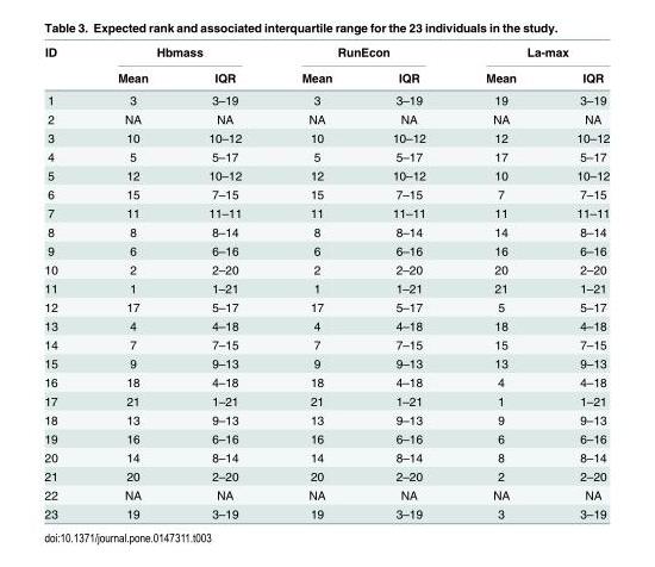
<table><thead><tr><td rowspan="2">ID</td><td colspan="2">Hbmass</td><td colspan="2">RunEcon</td><td colspan="2">La-max</td></tr><tr><td>Mean</td><td>IQR</td><td>Mean</td><td>IQR</td><td>Mean</td><td>IQR</td></tr></thead><tbody><tr><td>1</td><td>3</td><td>3–19</td><td>3</td><td>3–19</td><td>19</td><td>3–19</td></tr><tr><td>2</td><td>NA</td><td>NA</td><td>NA</td><td>NA</td><td>NA</td><td>NA</td></tr><tr><td>3</td><td>10</td><td>10–12</td><td>10</td><td>10–12</td><td>12</td><td>10–12</td></tr><tr><td>4</td><td>5</td><td>5–17</td><td>5</td><td>5–17</td><td>17</td><td>5–17</td></tr><tr><td>5</td><td>12</td><td>10–12</td><td>12</td><td>10–12</td><td>10</td><td>10–12</td></tr><tr><td>6</td><td>15</td><td>7–15</td><td>15</td><td>7–15</td><td>7</td><td>7–15</td></tr><tr><td>7</td><td>11</td><td>11–11</td><td>11</td><td>11–11</td><td>11</td><td>11–11</td></tr><tr><td>8</td><td>8</td><td>8–14</td><td>8</td><td>8–14</td><td>14</td><td>8–14</td></tr><tr><td>9</td><td>6</td><td>6–16</td><td>6</td><td>6–16</td><td>16</td><td>6–16</td></tr><tr><td>10</td><td>2</td><td>2–20</td><td>2</td><td>2–20</td><td>20</td><td>2–20</td></tr><tr><td>11</td><td>1</td><td>1–21</td><td>1</td><td>1–21</td><td>21</td><td>1–21</td></tr><tr><td>12</td><td>17</td><td>5–17</td><td>17</td><td>5–17</td><td>5</td><td>5–17</td></tr><tr><td>13</td><td>4</td><td>4–18</td><td>4</td><td>4–18</td><td>18</td><td>4–18</td></tr><tr><td>14</td><td>7</td><td>7–15</td><td>7</td><td>7–15</td><td>15</td><td>7–15</td></tr><tr><td>15</td><td>9</td><td>9–13</td><td>9</td><td>9–13</td><td>13</td><td>9–13</td></tr><tr><td>16</td><td>18</td><td>4–18</td><td>18</td><td>4–18</td><td>4</td><td>4–18</td></tr><tr><td>17</td><td>21</td><td>1–21</td><td>21</td><td>1–21</td><td>1</td><td>1–21</td></tr><tr><td>18</td><td>13</td><td>9–13</td><td>13</td><td>9–13</td><td>9</td><td>9–13</td></tr><tr><td>19</td><td>16</td><td>6–16</td><td>16</td><td>6–16</td><td>6</td><td>6–16</td></tr><tr><td>20</td><td>14</td><td>8–14</td><td>14</td><td>8–14</td><td>8</td><td>8–14</td></tr><tr><td>21</td><td>20</td><td>2–20</td><td>20</td><td>2–20</td><td>2</td><td>2–20</td></tr><tr><td>22</td><td>NA</td><td>NA</td><td>NA</td><td>NA</td><td>NA</td><td>NA</td></tr><tr><td>23</td><td>19</td><td>3–19</td><td>19</td><td>3–19</td><td>3</td><td>3–19</td></tr></tbody></table>